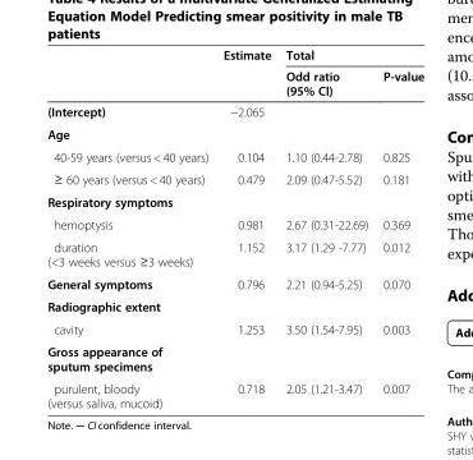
<table><thead><tr><td rowspan="2"></td><td rowspan="2">Estimate</td><td colspan="2">Total</td></tr><tr><td>Odd ratio (95% Cl)</td><td>P-value</td></tr></thead><tbody><tr><td>(Intercept)</td><td>−2.065</td><td></td><td></td></tr><tr><td colspan="4">Age</td></tr><tr><td>40-59 years (versus &lt; 40 years)</td><td>0.104</td><td>1.10 (0.44-2.78)</td><td>0.825</td></tr><tr><td>≥ 60 years (versus &lt; 40 years)</td><td>0.479</td><td>2.09 (0.47-5.52)</td><td>0.181</td></tr><tr><td colspan="4">Respiratory symptoms</td></tr><tr><td>hemoptysis</td><td>0.981</td><td>2.67 (0.31-22.69)</td><td>0.369</td></tr><tr><td>duration (&lt;3 weeks versus ≥3 weeks)</td><td>1.152</td><td>3.17 (1.29 -7.77)</td><td>0.012</td></tr><tr><td>General symptoms</td><td>0.796</td><td>2.21 (0.94-5.25)</td><td>0.070</td></tr><tr><td colspan="4">Radiographic extent</td></tr><tr><td>cavity</td><td>1.253</td><td>3.50 (1.54-7.95)</td><td>0.003</td></tr><tr><td colspan="4">Gross appearance of sputum specimens</td></tr><tr><td>purulent, bloody (versus saliva, mucoid)</td><td>0.718</td><td>2.05 (1.21-3.47)</td><td>0.007</td></tr></tbody></table>